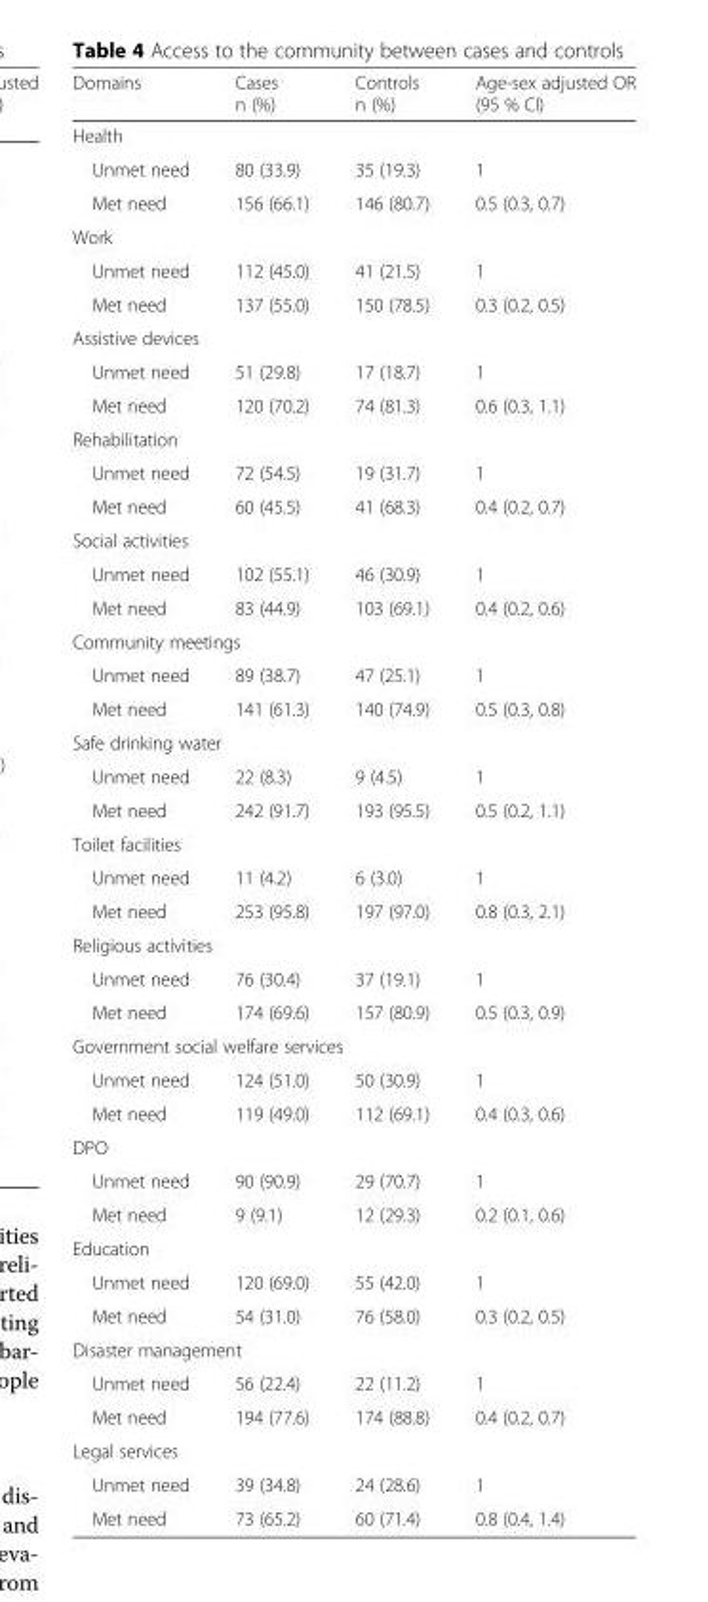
<table><thead><tr><td>Domains</td><td>Cases n (%)</td><td>Controls n (%)</td><td>Age-sex adjusted OR (95 % CI)</td></tr></thead><tbody><tr><td colspan="4">Health</td></tr><tr><td>Unmet need</td><td>80 (33.9)</td><td>35 (19.3)</td><td>1</td></tr><tr><td>Met need</td><td>156 (66.1)</td><td>146 (80.7)</td><td>0.5 (0.3, 0.7)</td></tr><tr><td colspan="4">Work</td></tr><tr><td>Unmet need</td><td>112 (45.0)</td><td>41 (21.5)</td><td>1</td></tr><tr><td>Met need</td><td>137 (55.0)</td><td>150 (78.5)</td><td>0.3 (0.2, 0.5)</td></tr><tr><td colspan="4">Assistive devices</td></tr><tr><td>Unmet need</td><td>51 (29.8)</td><td>17 (18.7)</td><td>1</td></tr><tr><td>Met need</td><td>120 (70.2)</td><td>74 (81.3)</td><td>0.6 (0.3, 1.1)</td></tr><tr><td colspan="4">Rehabilitation</td></tr><tr><td>Unmet need</td><td>72 (54.5)</td><td>19 (31.7)</td><td>1</td></tr><tr><td>Met need</td><td>60 (45.5)</td><td>41 (68.3)</td><td>0.4 (0.2, 0.7)</td></tr><tr><td colspan="4">Social activities</td></tr><tr><td>Unmet need</td><td>102 (55.1)</td><td>46 (30.9)</td><td>1</td></tr><tr><td>Met need</td><td>83 (44.9)</td><td>103 (69.1)</td><td>0.4 (0.2, 0.6)</td></tr><tr><td colspan="4">Community meetings</td></tr><tr><td>Unmet need</td><td>89 (38.7)</td><td>47 (25.1)</td><td>1</td></tr><tr><td>Met need</td><td>141 (61.3)</td><td>140 (74.9)</td><td>0.5 (0.3, 0.8)</td></tr><tr><td colspan="4">Safe drinking water</td></tr><tr><td>Unmet need</td><td>22 (8.3)</td><td>9 (4.5)</td><td>1</td></tr><tr><td>Met need</td><td>242 (91.7)</td><td>193 (95.5)</td><td>0.5 (0.2, 1.1)</td></tr><tr><td colspan="4">Toilet facilities</td></tr><tr><td>Unmet need</td><td>11 (4.2)</td><td>6 (3.0)</td><td>1</td></tr><tr><td>Met need</td><td>253 (95.8)</td><td>197 (97.0)</td><td>0.8 (0.3, 2.1)</td></tr><tr><td colspan="4">Religious activities</td></tr><tr><td>Unmet need</td><td>76 (30.4)</td><td>37 (19.1)</td><td>1</td></tr><tr><td>Met need</td><td>174 (69.6)</td><td>157 (80.9)</td><td>0.5 (0.3, 0.9)</td></tr><tr><td colspan="4">Government social welfare services</td></tr><tr><td>Unmet need</td><td>124 (51.0)</td><td>50 (30.9)</td><td>1</td></tr><tr><td>Met need</td><td>119 (49.0)</td><td>112 (69.1)</td><td>0.4 (0.3, 0.6)</td></tr><tr><td colspan="4">DPO</td></tr><tr><td>Unmet need</td><td>90 (90.9)</td><td>29 (70.7)</td><td>1</td></tr><tr><td>Met need</td><td>9 (9.1)</td><td>12 (29.3)</td><td>0.2 (0.1, 0.6)</td></tr><tr><td colspan="4">Education</td></tr><tr><td>Unmet need</td><td>120 (69.0)</td><td>55 (42.0)</td><td>1</td></tr><tr><td>Met need</td><td>54 (31.0)</td><td>76 (58.0)</td><td>0.3 (0.2, 0.5)</td></tr><tr><td colspan="4">Disaster management</td></tr><tr><td>Unmet need</td><td>56 (22.4)</td><td>22 (11.2)</td><td>1</td></tr><tr><td>Met need</td><td>194 (77.6)</td><td>174 (88.8)</td><td>0.4 (0.2, 0.7)</td></tr><tr><td colspan="4">Legal services</td></tr><tr><td>Unmet need</td><td>39 (34.8)</td><td>24 (28.6)</td><td>1</td></tr><tr><td>Met need</td><td>73 (65.2)</td><td>60 (71.4)</td><td>0.8 (0.4, 1.4)</td></tr></tbody></table>